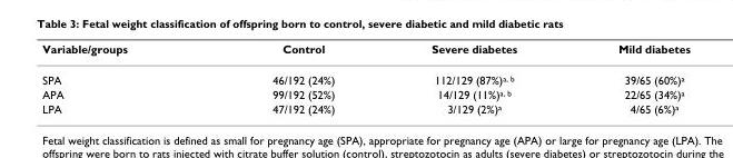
<table><thead><tr><td>Variable/groups</td><td>Control</td><td>Severe diabetes</td><td>Mild diabetes</td></tr></thead><tbody><tr><td>SPA</td><td>46/192 (24%)</td><td>112/129 (87%)<sup>a, b</sup></td><td>39/65 (60%)<sup>a</sup></td></tr><tr><td>APA</td><td>99/192 (52%)</td><td>14/129 (11%)<sup>a, b</sup></td><td>22/65 (34%)<sup>a</sup></td></tr><tr><td>LPA</td><td>47/192 (24%)</td><td>3/129 (2%)<sup>a</sup></td><td>4/65 (6%)<sup>a</sup></td></tr></tbody></table>